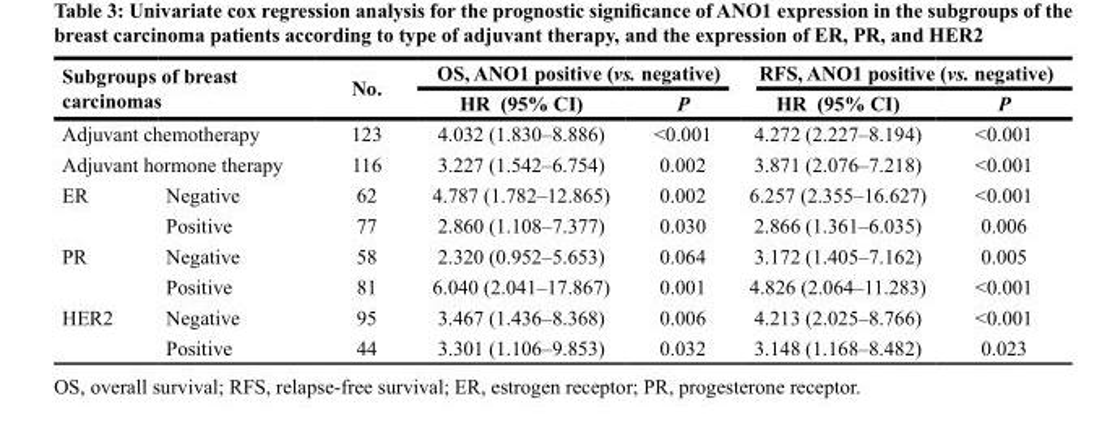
<table><thead><tr><td rowspan="4" colspan="2">Subgroups of breast carcinomas Adjuvant chemotherapy Adjuvant hormone therapy</td><td rowspan="5">No. 123 116 62</td><td colspan="2">OS, ANO1 positive (vs. negative)</td><td colspan="2">RFS, ANO1 positive (vs. negative)</td></tr><tr><td rowspan="4">HR (95% CI) 4.032 (1.830–8.886) 3.227 (1.542–6.754) 4.787 (1.782–12.865)</td><td rowspan="4">P &lt;0.001 0.002 0.002</td><td rowspan="4">HR (95% CI) 4.272 (2.227–8.194) 3.871 (2.076–7.218) 6.257 (2.355–16.627)</td><td rowspan="4">P &lt;0.001 &lt;0.001 &lt;0.001</td></tr><tr></tr><tr></tr><tr><td>ER</td><td>Negative</td></tr></thead><tbody><tr><td></td><td>Positive</td><td>77</td><td>2.860 (1.108–7.377)</td><td>0.030</td><td>2.866 (1.361–6.035)</td><td>0.006</td></tr><tr><td rowspan="2">PR</td><td>Negative</td><td>58</td><td>2.320 (0.952–5.653)</td><td>0.064</td><td>3.172 (1.405–7.162)</td><td>0.005</td></tr><tr><td>Positive</td><td>81</td><td>6.040 (2.041–17.867)</td><td>0.001</td><td>4.826 (2.064–11.283)</td><td>&lt;0.001</td></tr><tr><td rowspan="2">HER2</td><td>Negative</td><td>95</td><td>3.467 (1.436–8.368)</td><td>0.006</td><td>4.213 (2.025–8.766)</td><td>&lt;0.001</td></tr><tr><td>Positive</td><td>44</td><td>3.301 (1.106–9.853)</td><td>0.032</td><td>3.148 (1.168–8.482)</td><td>0.023</td></tr></tbody></table>